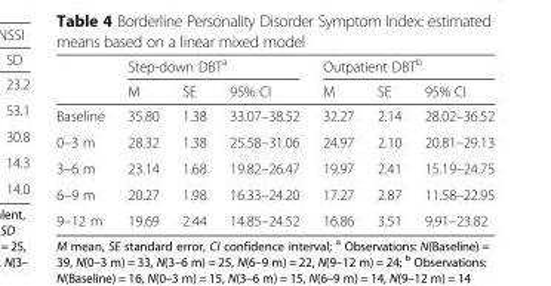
<table><thead><tr><td rowspan="2"></td><td colspan="3">Step-down DBT<sup>a</sup></td><td colspan="3">Outpatient DBT<sup>b</sup></td></tr><tr><td>M</td><td>SE</td><td>95% CI</td><td>M</td><td>SE</td><td>95% CI</td></tr></thead><tbody><tr><td>Baseline</td><td>35.80</td><td>1.38</td><td>33.07–38.52</td><td>32.27</td><td>2.14</td><td>28.02–36.52</td></tr><tr><td>0–3 m</td><td>28.32</td><td>1.38</td><td>25.58–31.06</td><td>24.97</td><td>2.10</td><td>20.81–29.13</td></tr><tr><td>3–6 m</td><td>23.14</td><td>1.68</td><td>19.82–26.47</td><td>19.97</td><td>2.41</td><td>15.19–24.75</td></tr><tr><td>6–9 m</td><td>20.27</td><td>1.98</td><td>16.33–24.20</td><td>17.27</td><td>2.87</td><td>11.58–22.95</td></tr><tr><td>9–12 m</td><td>19.69</td><td>2.44</td><td>14.85–24.52</td><td>16.86</td><td>3.51</td><td>9.91–23.82</td></tr></tbody></table>